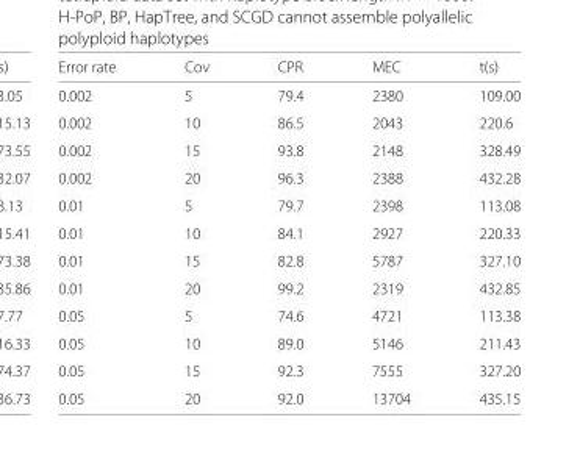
<table><thead><tr><td>Error rate</td><td>Cov</td><td>CPR</td><td>MEC</td><td>t(s)</td></tr></thead><tbody><tr><td>0.002</td><td>5</td><td>79.4</td><td>2380</td><td>109.00</td></tr><tr><td>0.002</td><td>10</td><td>86.5</td><td>2043</td><td>220.6</td></tr><tr><td>0.002</td><td>15</td><td>93.8</td><td>2148</td><td>328.49</td></tr><tr><td>0.002</td><td>20</td><td>96.3</td><td>2388</td><td>432.28</td></tr><tr><td>0.01</td><td>5</td><td>79.7</td><td>2398</td><td>113.08</td></tr><tr><td>0.01</td><td>10</td><td>84.1</td><td>2927</td><td>220.33</td></tr><tr><td>0.01</td><td>15</td><td>82.8</td><td>5787</td><td>327.10</td></tr><tr><td>0.01</td><td>20</td><td>99.2</td><td>2319</td><td>432.85</td></tr><tr><td>0.05</td><td>5</td><td>74.6</td><td>4721</td><td>113.38</td></tr><tr><td>0.05</td><td>10</td><td>89.0</td><td>5146</td><td>211.43</td></tr><tr><td>0.05</td><td>15</td><td>92.3</td><td>7555</td><td>327.20</td></tr><tr><td>0.05</td><td>20</td><td>92.0</td><td>13704</td><td>435.15</td></tr></tbody></table>